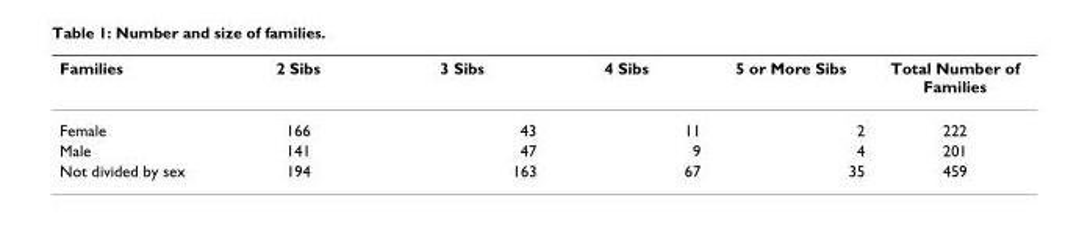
<table><thead><tr><td>Families</td><td>2 Sibs</td><td>3 Sibs</td><td>4 Sibs</td><td>5 or More Sibs</td><td>Total Number of Families</td></tr></thead><tbody><tr><td>Female</td><td>166</td><td>43</td><td>11</td><td>2</td><td>222</td></tr><tr><td>Male</td><td>141</td><td>47</td><td>9</td><td>4</td><td>201</td></tr><tr><td>Not divided by sex</td><td>194</td><td>163</td><td>67</td><td>35</td><td>459</td></tr></tbody></table>